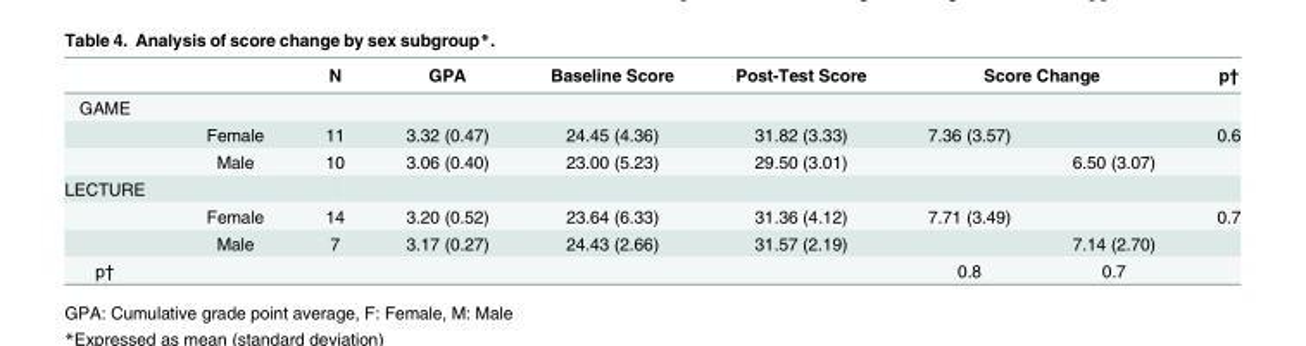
<table><thead><tr><td rowspan="2">GAME</td><td rowspan="2"></td><td rowspan="2">N</td><td rowspan="2">GPA</td><td rowspan="2">Baseline Score</td><td rowspan="2">Post-Test Score</td><td colspan="2">Score Change</td><td rowspan="2">p†</td></tr><tr><td></td><td></td></tr></thead><tbody><tr><td></td><td>Female</td><td>11</td><td>3.32 (0.47)</td><td>24.45 (4.36)</td><td>31.82 (3.33)</td><td>7.36 (3.57)</td><td></td><td>0.6</td></tr><tr><td></td><td>Male</td><td>10</td><td>3.06 (0.40)</td><td>23.00 (5.23)</td><td>29.50 (3.01)</td><td></td><td>6.50 (3.07)</td><td></td></tr><tr><td colspan="9">LECTURE</td></tr><tr><td></td><td>Female</td><td>14</td><td>3.20 (0.52)</td><td>23.64 (6.33)</td><td>31.36 (4.12)</td><td>7.71 (3.49)</td><td></td><td>0.7</td></tr><tr><td></td><td>Male</td><td>7</td><td>3.17 (0.27)</td><td>24.43 (2.66)</td><td>31.57 (2.19)</td><td></td><td>7.14 (2.70)</td><td></td></tr><tr><td>p†</td><td></td><td></td><td></td><td></td><td></td><td>0.8</td><td>0.7</td><td></td></tr></tbody></table>